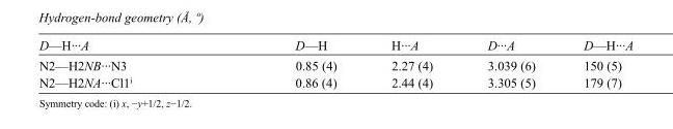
<table><tbody><tr><td>D—H···A</td><td>D—H</td><td>H···A</td><td>D···A</td><td>D—H···A</td></tr><tr><td>N2—H2NB···N3</td><td>0.85 (4)</td><td>2.27 (4)</td><td>3.039 (6)</td><td>150 (5)</td></tr><tr><td>N2—H2NA···Cl1<sup>i</sup></td><td>0.86 (4)</td><td>2.44 (4)</td><td>3.305 (5)</td><td>179 (7)</td></tr></tbody></table>